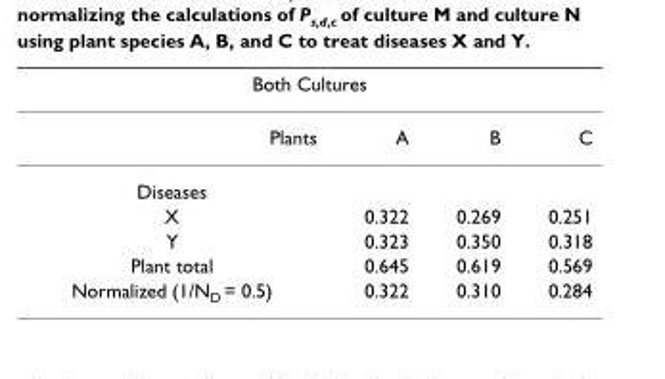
<table><thead><tr><td colspan="4">Both Cultures</td></tr><tr><td>Plants</td><td>A</td><td>B</td><td>C</td></tr></thead><tbody><tr><td colspan="4">Diseases</td></tr><tr><td>X</td><td>0.322</td><td>0.269</td><td>0.251</td></tr><tr><td>Y</td><td>0.323</td><td>0.350</td><td>0.318</td></tr><tr><td>Plant total</td><td>0.645</td><td>0.619</td><td>0.569</td></tr><tr><td>Normalized (1/N<sub>D</sub> = 0.5)</td><td>0.322</td><td>0.310</td><td>0.284</td></tr></tbody></table>